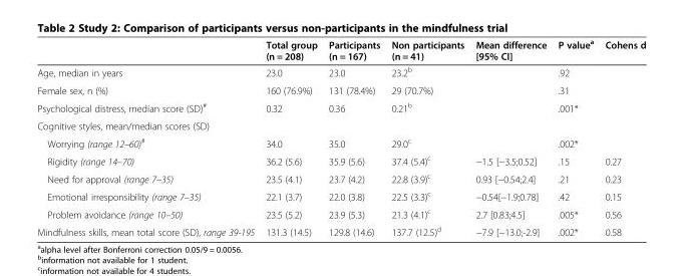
<table><thead><tr><td></td><td>Total group (n = 208)</td><td>Participants (n = 167)</td><td>Non participants (n = 41)</td><td>Mean difference [95% CI]</td><td>P value<sup>a</sup></td><td>Cohens d</td></tr></thead><tbody><tr><td>Age, median in years</td><td>23.0</td><td>23.0</td><td>23.2<sup>b</sup></td><td></td><td>.92</td><td></td></tr><tr><td>Female sex, n (%)</td><td>160 (76.9%)</td><td>131 (78.4%)</td><td>29 (70.7%)</td><td></td><td>.31</td><td></td></tr><tr><td>Psychological distress, median score (SD)<sup>#</sup></td><td>0.32</td><td>0.36</td><td>0.21<sup>b</sup></td><td></td><td>.001*</td><td></td></tr><tr><td colspan="7">Cognitive styles, mean/median scores (SD)</td></tr><tr><td>Worrying (range 12–60)<sup>#</sup></td><td>34.0</td><td>35.0</td><td>29.0<sup>c</sup></td><td></td><td>.002*</td><td></td></tr><tr><td>Rigidity (range 14–70)</td><td>36.2 (5.6)</td><td>35.9 (5.6)</td><td>37.4 (5.4)<sup>c</sup></td><td>−1.5 [−3.5;0.52]</td><td>.15</td><td>0.27</td></tr><tr><td>Need for approval (range 7–35)</td><td>23.5 (4.1)</td><td>23.7 (4.2)</td><td>22.8 (3.9)<sup>c</sup></td><td>0.93 [−0.54;2.4]</td><td>.21</td><td>0.23</td></tr><tr><td>Emotional irresponsibility (range 7–35)</td><td>22.1 (3.7)</td><td>22.0 (3.8)</td><td>22.5 (3.3)<sup>c</sup></td><td>−0.54[−1.9;0.78]</td><td>.42</td><td>0.15</td></tr><tr><td>Problem avoidance (range 10–50)</td><td>23.5 (5.2)</td><td>23.9 (5.3)</td><td>21.3 (4.1)<sup>c</sup></td><td>2.7 [0.83;4.5]</td><td>.005*</td><td>0.56</td></tr><tr><td>Mindfulness skills, mean total score (SD), range 39-195</td><td>131.3 (14.5)</td><td>129.8 (14.6)</td><td>137.7 (12.5)<sup>d</sup></td><td>−7.9 [−13.0;-2.9]</td><td>.002*</td><td>0.58</td></tr></tbody></table>